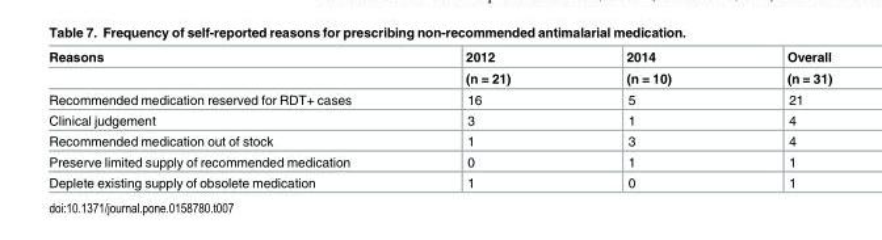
<table><thead><tr><td rowspan="2">Reasons</td><td rowspan="2">2012 (n = 21)</td><td rowspan="2">2014 (n = 10)</td><td rowspan="2">Overall (n = 31)</td></tr><tr></tr></thead><tbody><tr><td>Recommended medication reserved for RDT+ cases</td><td>16</td><td>5</td><td>21</td></tr><tr><td>Clinical judgement</td><td>3</td><td>1</td><td>4</td></tr><tr><td>Recommended medication out of stock</td><td>1</td><td>3</td><td>4</td></tr><tr><td>Preserve limited supply of recommended medication</td><td>0</td><td>1</td><td>1</td></tr><tr><td>Deplete existing supply of obsolete medication</td><td>1</td><td>0</td><td>1</td></tr></tbody></table>